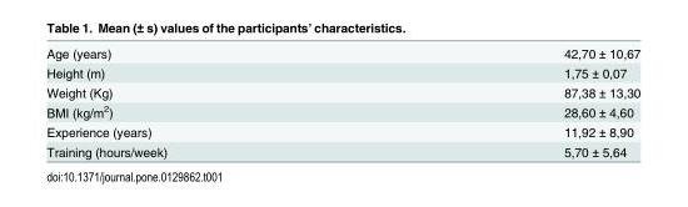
<table><tbody><tr><td>Age (years)</td><td>42,70 ± 10,67</td></tr><tr><td>Height (m)</td><td>1,75 ± 0,07</td></tr><tr><td>Weight (Kg)</td><td>87,38 ± 13,30</td></tr><tr><td>BMI (kg/m<sup>2</sup>)</td><td>28,60 ± 4,60</td></tr><tr><td>Experience (years)</td><td>11,92 ± 8,90</td></tr><tr><td>Training (hours/week)</td><td>5,70 ± 5,64</td></tr></tbody></table>